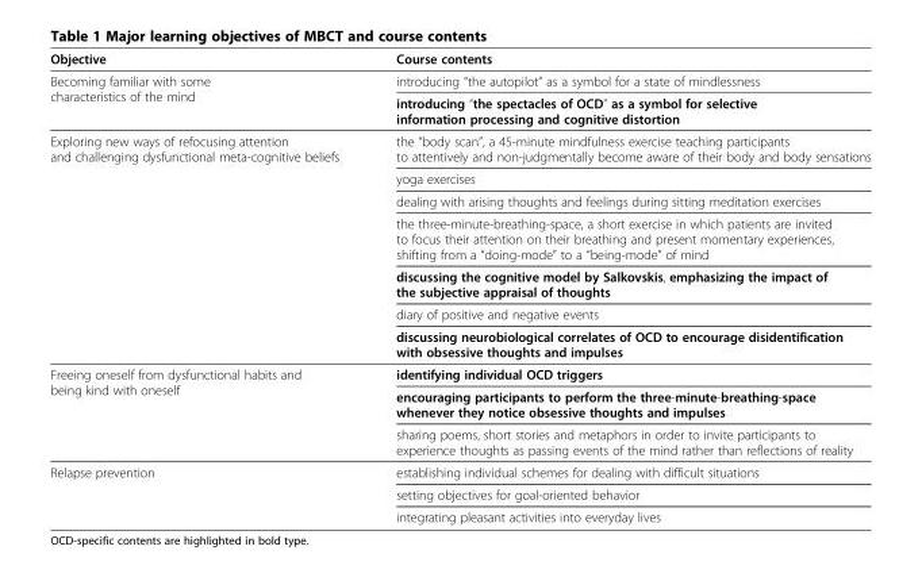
<table><thead><tr><td>Objective</td><td>Course contents</td></tr></thead><tbody><tr><td rowspan="2">Becoming familiar with some characteristics of the mind</td><td>introducing “the autopilot” as a symbol for a state of mindlessness</td></tr><tr><td>introducing “the spectacles of OCD” as a symbol for selective information processing and cognitive distortion</td></tr><tr><td rowspan="7">Exploring new ways of refocusing attention and challenging dysfunctional meta-cognitive beliefs</td><td>the “body scan”, a 45-minute mindfulness exercise teaching participants to attentively and non-judgmentally become aware of their body and body sensations</td></tr><tr><td>yoga exercises</td></tr><tr><td>dealing with arising thoughts and feelings during sitting meditation exercises</td></tr><tr><td>the three-minute-breathing-space, a short exercise in which patients are invited to focus their attention on their breathing and present momentary experiences, shifting from a “doing-mode” to a “being-mode” of mind</td></tr><tr><td>discussing the cognitive model by Salkovskis, emphasizing the impact of the subjective appraisal of thoughts</td></tr><tr><td>diary of positive and negative events</td></tr><tr><td>discussing neurobiological correlates of OCD to encourage disidentification with obsessive thoughts and impulses</td></tr><tr><td rowspan="3">Freeing oneself from dysfunctional habits and being kind with oneself</td><td>identifying individual OCD triggers</td></tr><tr><td>encouraging participants to perform the three-minute-breathing-space whenever they notice obsessive thoughts and impulses</td></tr><tr><td>sharing poems, short stories and metaphors in order to invite participants to experience thoughts as passing events of the mind rather than reflections of reality</td></tr><tr><td rowspan="3">Relapse prevention</td><td>establishing individual schemes for dealing with difficult situations</td></tr><tr><td>setting objectives for goal-oriented behavior</td></tr><tr><td>integrating pleasant activities into everyday lives</td></tr></tbody></table>